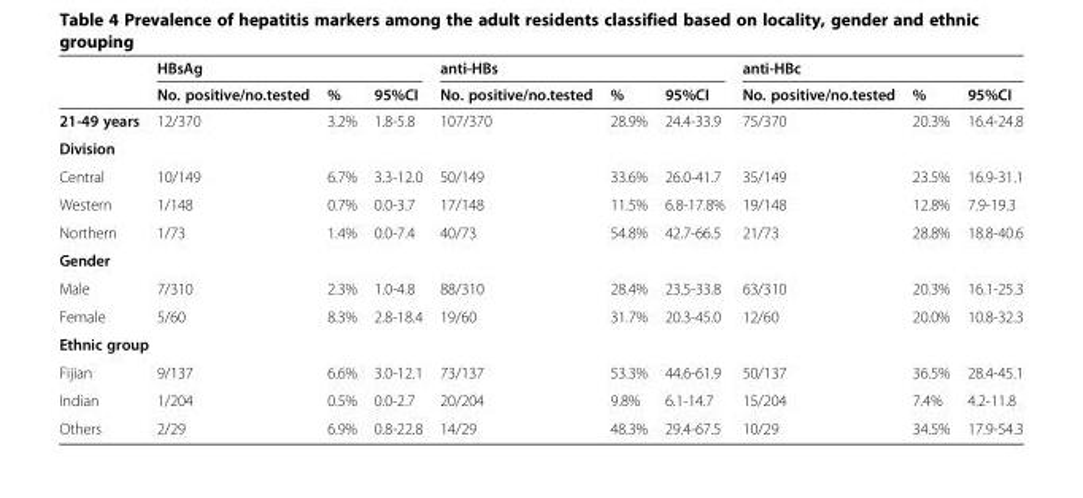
<table><thead><tr><td rowspan="2"></td><td colspan="3">HBsAg</td><td colspan="3">anti-HBs</td><td colspan="3">anti-HBc</td></tr><tr><td>No. positive/no.tested</td><td>%</td><td>95%CI</td><td>No. positive/no.tested</td><td>%</td><td>95%CI</td><td>No. positive/no.tested</td><td>%</td><td>95%CI</td></tr></thead><tbody><tr><td>21-49 years</td><td>12/370</td><td>3.2%</td><td>1.8-5.8</td><td>107/370</td><td>28.9%</td><td>24.4-33.9</td><td>75/370</td><td>20.3%</td><td>16.4-24.8</td></tr><tr><td colspan="10">Division</td></tr><tr><td>Central</td><td>10/149</td><td>6.7%</td><td>3.3-12.0</td><td>50/149</td><td>33.6%</td><td>26.0-41.7</td><td>35/149</td><td>23.5%</td><td>16.9-31.1</td></tr><tr><td>Western</td><td>1/148</td><td>0.7%</td><td>0.0-3.7</td><td>17/148</td><td>11.5%</td><td>6.8-17.8%</td><td>19/148</td><td>12.8%</td><td>7.9-19.3</td></tr><tr><td>Northern</td><td>1/73</td><td>1.4%</td><td>0.0-7.4</td><td>40/73</td><td>54.8%</td><td>42.7-66.5</td><td>21/73</td><td>28.8%</td><td>18.8-40.6</td></tr><tr><td colspan="10">Gender</td></tr><tr><td>Male</td><td>7/310</td><td>2.3%</td><td>1.0-4.8</td><td>88/310</td><td>28.4%</td><td>23.5-33.8</td><td>63/310</td><td>20.3%</td><td>16.1-25.3</td></tr><tr><td>Female</td><td>5/60</td><td>8.3%</td><td>2.8-18.4</td><td>19/60</td><td>31.7%</td><td>20.3-45.0</td><td>12/60</td><td>20.0%</td><td>10.8-32.3</td></tr><tr><td colspan="10">Ethnic group</td></tr><tr><td>Fijian</td><td>9/137</td><td>6.6%</td><td>3.0-12.1</td><td>73/137</td><td>53.3%</td><td>44.6-61.9</td><td>50/137</td><td>36.5%</td><td>28.4-45.1</td></tr><tr><td>Indian</td><td>1/204</td><td>0.5%</td><td>0.0-2.7</td><td>20/204</td><td>9.8%</td><td>6.1-14.7</td><td>15/204</td><td>7.4%</td><td>4.2-11.8</td></tr><tr><td>Others</td><td>2/29</td><td>6.9%</td><td>0.8-22.8</td><td>14/29</td><td>48.3%</td><td>29.4-67.5</td><td>10/29</td><td>34.5%</td><td>17.9-54.3</td></tr></tbody></table>